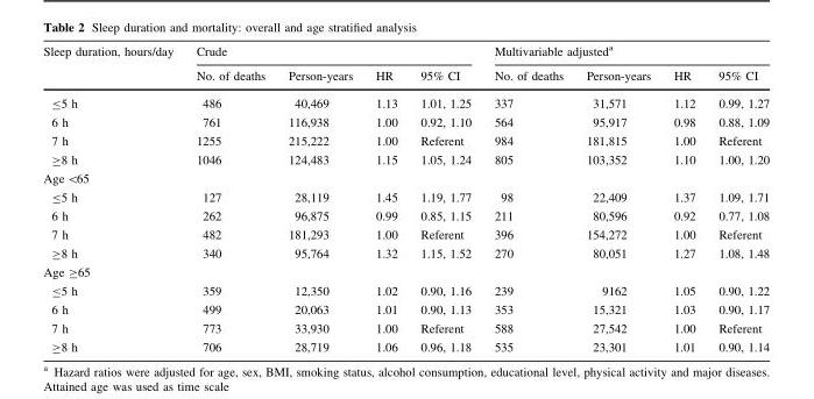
<table><thead><tr><td rowspan="2">Sleep duration, hours/day</td><td colspan="4">Crude</td><td colspan="4">Multivariable adjusted<sup>a</sup></td></tr><tr><td>No. of deaths</td><td>Person-years</td><td>HR</td><td>95% CI</td><td>No. of deaths</td><td>Person-years</td><td>HR</td><td>95% CI</td></tr></thead><tbody><tr><td>≤5 h</td><td>486</td><td>40,469</td><td>1.13</td><td>1.01, 1.25</td><td>337</td><td>31,571</td><td>1.12</td><td>0.99, 1.27</td></tr><tr><td>6 h</td><td>761</td><td>116,938</td><td>1.00</td><td>0.92, 1.10</td><td>564</td><td>95,917</td><td>0.98</td><td>0.88, 1.09</td></tr><tr><td>7 h</td><td>1255</td><td>215,222</td><td>1.00</td><td>Referent</td><td>984</td><td>181,815</td><td>1.00</td><td>Referent</td></tr><tr><td>≥8 h</td><td>1046</td><td>124,483</td><td>1.15</td><td>1.05, 1.24</td><td>805</td><td>103,352</td><td>1.10</td><td>1.00, 1.20</td></tr><tr><td colspan="9">Age &lt;65</td></tr><tr><td>≤5 h</td><td>127</td><td>28,119</td><td>1.45</td><td>1.19, 1.77</td><td>98</td><td>22,409</td><td>1.37</td><td>1.09, 1.71</td></tr><tr><td>6 h</td><td>262</td><td>96,875</td><td>0.99</td><td>0.85, 1.15</td><td>211</td><td>80,596</td><td>0.92</td><td>0.77, 1.08</td></tr><tr><td>7 h</td><td>482</td><td>181,293</td><td>1.00</td><td>Referent</td><td>396</td><td>154,272</td><td>1.00</td><td>Referent</td></tr><tr><td>≥8 h</td><td>340</td><td>95,764</td><td>1.32</td><td>1.15, 1.52</td><td>270</td><td>80,051</td><td>1.27</td><td>1.08, 1.48</td></tr><tr><td colspan="9">Age ≥65</td></tr><tr><td>≤5 h</td><td>359</td><td>12,350</td><td>1.02</td><td>0.90, 1.16</td><td>239</td><td>9162</td><td>1.05</td><td>0.90, 1.22</td></tr><tr><td>6 h</td><td>499</td><td>20,063</td><td>1.01</td><td>0.90, 1.13</td><td>353</td><td>15,321</td><td>1.03</td><td>0.90, 1.17</td></tr><tr><td>7 h</td><td>773</td><td>33,930</td><td>1.00</td><td>Referent</td><td>588</td><td>27,542</td><td>1.00</td><td>Referent</td></tr><tr><td>≥8 h</td><td>706</td><td>28,719</td><td>1.06</td><td>0.96, 1.18</td><td>535</td><td>23,301</td><td>1.01</td><td>0.90, 1.14</td></tr></tbody></table>